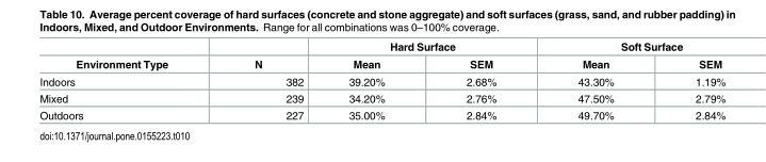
<table><thead><tr><td rowspan="2">Environment Type</td><td rowspan="2">N</td><td colspan="2">Hard Surface</td><td colspan="2">Soft Surface</td></tr><tr><td>Mean</td><td>SEM</td><td>Mean</td><td>SEM</td></tr></thead><tbody><tr><td>Indoors</td><td>382</td><td>39.20%</td><td>2.68%</td><td>43.30%</td><td>1.19%</td></tr><tr><td>Mixed</td><td>239</td><td>34.20%</td><td>2.76%</td><td>47.50%</td><td>2.79%</td></tr><tr><td>Outdoors</td><td>227</td><td>35.00%</td><td>2.84%</td><td>49.70%</td><td>2.84%</td></tr></tbody></table>